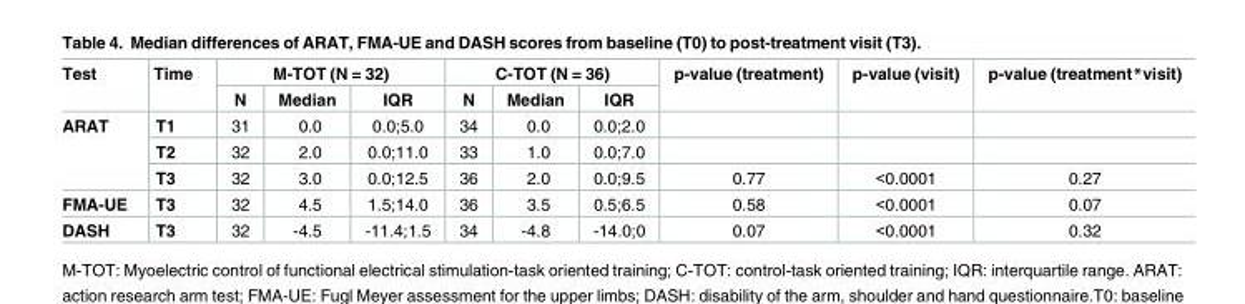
<table><thead><tr><td rowspan="2">Test</td><td rowspan="2">Time</td><td colspan="3">M-TOT (N = 32)</td><td colspan="3">C-TOT (N = 36)</td><td rowspan="2">p-value (treatment)</td><td rowspan="2">p-value (visit)</td><td rowspan="2">p-value (treatment*visit)</td></tr><tr><td>N</td><td>Median</td><td>IQR</td><td>N</td><td>Median</td><td>IQR</td></tr></thead><tbody><tr><td rowspan="3">ARAT</td><td>T1</td><td>31</td><td>0.0</td><td>0.0;5.0</td><td>34</td><td>0.0</td><td>0.0;2.0</td><td></td><td></td><td></td></tr><tr><td>T2</td><td>32</td><td>2.0</td><td>0.0;11.0</td><td>33</td><td>1.0</td><td>0.0;7.0</td><td></td><td></td><td></td></tr><tr><td>T3</td><td>32</td><td>3.0</td><td>0.0;12.5</td><td>36</td><td>2.0</td><td>0.0;9.5</td><td>0.77</td><td>&lt;0.0001</td><td>0.27</td></tr><tr><td>FMA-UE</td><td>T3</td><td>32</td><td>4.5</td><td>1.5;14.0</td><td>36</td><td>3.5</td><td>0.5;6.5</td><td>0.58</td><td>&lt;0.0001</td><td>0.07</td></tr><tr><td>DASH</td><td>T3</td><td>32</td><td>-4.5</td><td>-11.4;1.5</td><td>34</td><td>-4.8</td><td>-14.0;0</td><td>0.07</td><td>&lt;0.0001</td><td>0.32</td></tr></tbody></table>